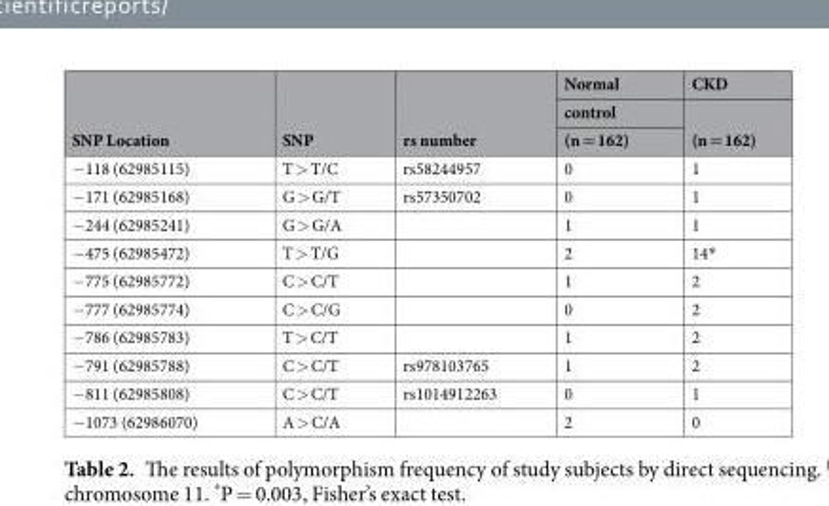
<table><thead><tr><td rowspan="3">SNP Location</td><td rowspan="3">SNP</td><td rowspan="3">rs number</td><td rowspan="3">Normal control (n = 162)</td><td rowspan="3">CKD (n = 162)</td></tr><tr></tr><tr></tr></thead><tbody><tr><td>−118 (62985115)</td><td>T &gt; T/C</td><td>rs58244957</td><td>0</td><td>1</td></tr><tr><td>−171 (62985168)</td><td>G &gt; G/T</td><td>rs57350702</td><td>0</td><td>1</td></tr><tr><td>−244 (62985241)</td><td>G &gt; G/A</td><td></td><td>1</td><td>1</td></tr><tr><td>−475 (62985472)</td><td>T &gt; T/G</td><td></td><td>2</td><td>14*</td></tr><tr><td>−775 (62985772)</td><td>C &gt; C/T</td><td></td><td>1</td><td>2</td></tr><tr><td>−777 (62985774)</td><td>C &gt; C/G</td><td></td><td>0</td><td>2</td></tr><tr><td>−786 (62985783)</td><td>T &gt; C/T</td><td></td><td>1</td><td>2</td></tr><tr><td>−791 (62985788)</td><td>C &gt; C/T</td><td>rs978103765</td><td>1</td><td>2</td></tr><tr><td>−811 (62985808)</td><td>C &gt; C/T</td><td>rs1014912263</td><td>0</td><td>1</td></tr><tr><td>−1073 (62986070)</td><td>A &gt; C/A</td><td></td><td>2</td><td>0</td></tr></tbody></table>